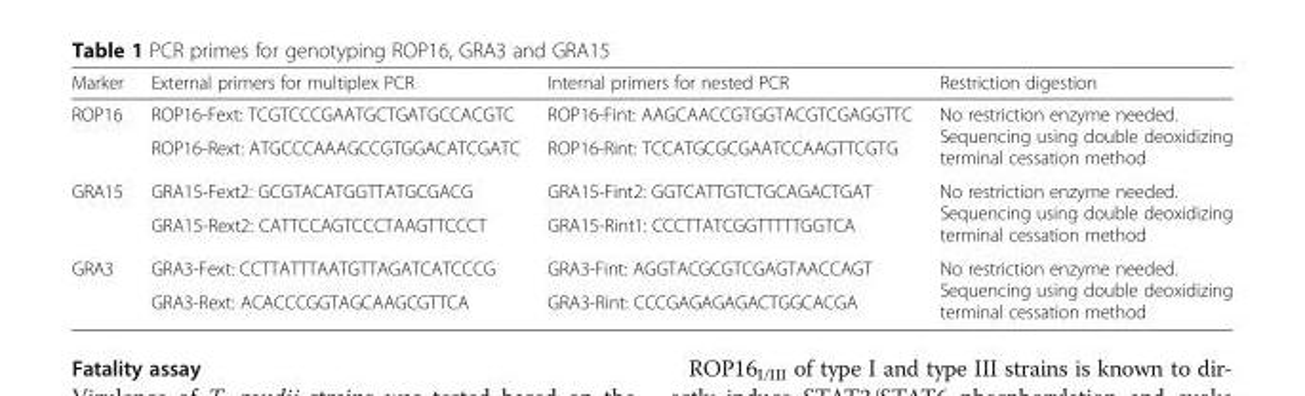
<table><thead><tr><td>Marker</td><td>External primers for multiplex PCR</td><td>Internal primers for nested PCR</td><td>Restriction digestion</td></tr></thead><tbody><tr><td rowspan="2">ROP16</td><td>ROP16-Fext: TCGTCCCGAATGCTGATGCCACGTC</td><td>ROP16-Fint: AAGCAACCGTGGTACGTCGAGGTTC</td><td rowspan="2">No restriction enzyme needed. Sequencing using double deoxidizing terminal cessation method</td></tr><tr><td>ROP16-Rext: ATGCCCAAAGCCGTGGACATCGATC</td><td>ROP16-Rint: TCCATGCGCGAATCCAAGTTCGTG</td></tr><tr><td rowspan="2">GRA15</td><td>GRA15-Fext2: GCGTACATGGTTATGCGACG</td><td>GRA15-Fint2: GGTCATTGTCTGCAGACTGAT</td><td rowspan="2">No restriction enzyme needed. Sequencing using double deoxidizing terminal cessation method</td></tr><tr><td>GRA15-Rext2: CATTCCAGTCCCTAAGTTCCCT</td><td>GRA15-Rint1: CCCTTATCGGTTTTTGGTCA</td></tr><tr><td rowspan="2">GRA3</td><td>GRA3-Fext: CCTTATTTAATGTTAGATCATCCCG</td><td>GRA3-Fint: AGGTACGCGTCGAGTAACCAGT</td><td rowspan="2">No restriction enzyme needed. Sequencing using double deoxidizing terminal cessation method</td></tr><tr><td>GRA3-Rext: ACACCCGGTAGCAAGCGTTCA</td><td>GRA3-Rint: CCCGAGAGAGACTGGCACGA</td></tr></tbody></table>